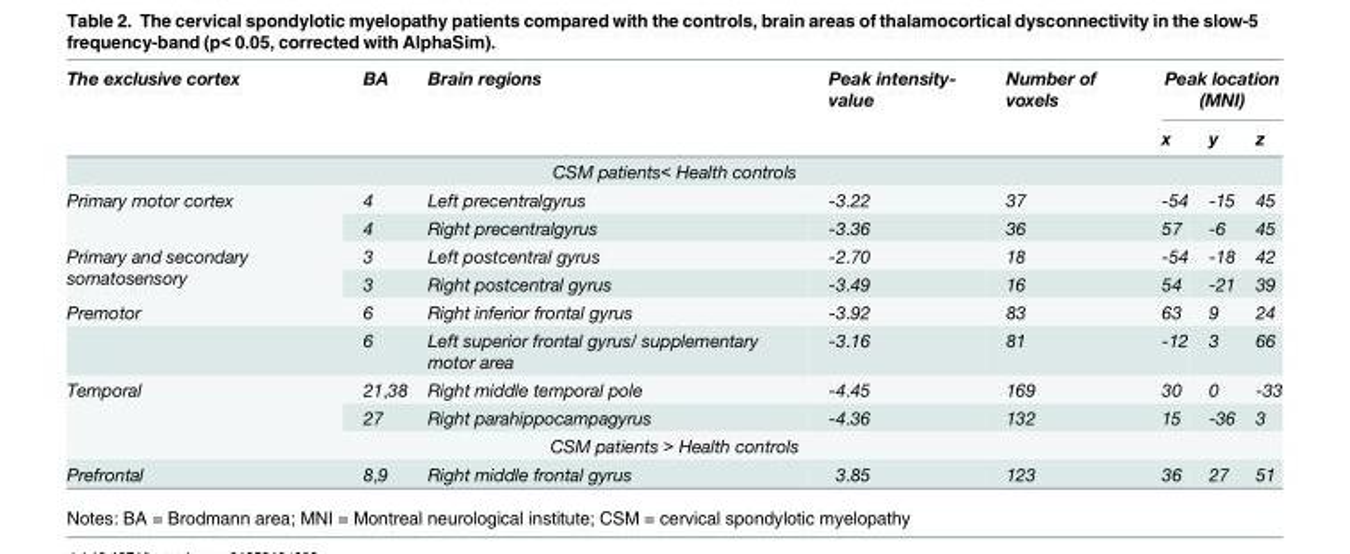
<table><thead><tr><td rowspan="2">The exclusive cortex</td><td rowspan="2">BA</td><td rowspan="2">Brain regions</td><td rowspan="2">Peak intensity- value</td><td rowspan="2">Number of voxels</td><td colspan="3">Peak location (MNI)</td></tr><tr><td>x</td><td>y</td><td>z</td></tr></thead><tbody><tr><td colspan="8">CSM patients&lt; Health controls</td></tr><tr><td rowspan="2">Primary motor cortex</td><td>4</td><td>Left precentralgyrus</td><td>-3.22</td><td>37</td><td>-54</td><td>-15</td><td>45</td></tr><tr><td>4</td><td>Right precentralgyrus</td><td>-3.36</td><td>36</td><td>57</td><td>-6</td><td>45</td></tr><tr><td rowspan="2">Primary and secondary somatosensory</td><td>3</td><td>Left postcentral gyrus</td><td>-2.70</td><td>18</td><td>-54</td><td>-18</td><td>42</td></tr><tr><td>3</td><td>Right postcentral gyrus</td><td>-3.49</td><td>16</td><td>54</td><td>-21</td><td>39</td></tr><tr><td rowspan="2">Premotor</td><td>6</td><td>Right inferior frontal gyrus</td><td>-3.92</td><td>83</td><td>63</td><td>9</td><td>24</td></tr><tr><td>6</td><td>Left superior frontal gyrus/ supplementary motor area</td><td>-3.16</td><td>81</td><td>-12</td><td>3</td><td>66</td></tr><tr><td rowspan="2">Temporal</td><td>21,38</td><td>Right middle temporal pole</td><td>-4.45</td><td>169</td><td>30</td><td>0</td><td>-33</td></tr><tr><td>27</td><td>Right parahippocampagyrus</td><td>-4.36</td><td>132</td><td>15</td><td>-36</td><td>3</td></tr><tr><td colspan="8">CSM patients &gt; Health controls</td></tr><tr><td>Prefrontal</td><td>8,9</td><td>Right middle frontal gyrus</td><td>3.85</td><td>123</td><td>36</td><td>27</td><td>51</td></tr></tbody></table>